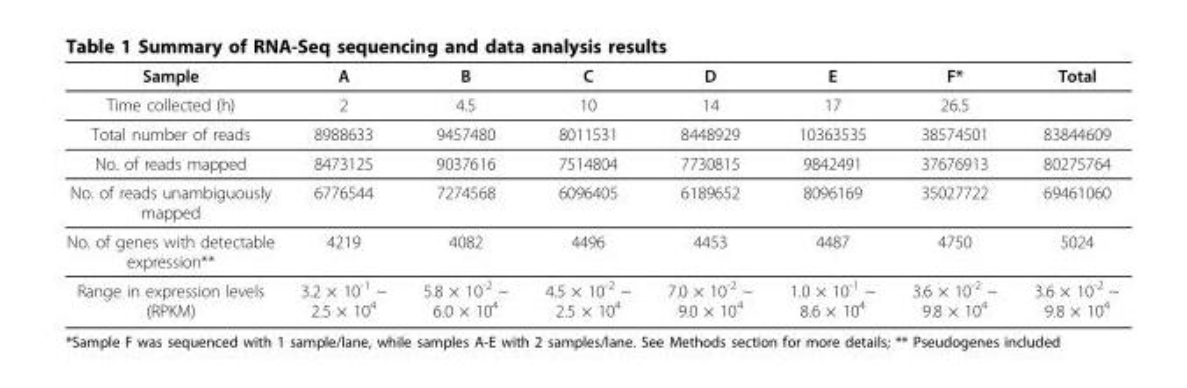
<table><thead><tr><td>Sample</td><td>A</td><td>B</td><td>C</td><td>D</td><td>E</td><td>F*</td><td>Total</td></tr></thead><tbody><tr><td>Time collected (h)</td><td>2</td><td>4.5</td><td>10</td><td>14</td><td>17</td><td>26.5</td><td></td></tr><tr><td>Total number of reads</td><td>8988633</td><td>9457480</td><td>8011531</td><td>8448929</td><td>10363535</td><td>38574501</td><td>83844609</td></tr><tr><td>No. of reads mapped</td><td>8473125</td><td>9037616</td><td>7514804</td><td>7730815</td><td>9842491</td><td>37676913</td><td>80275764</td></tr><tr><td>No. of reads unambiguously mapped</td><td>6776544</td><td>7274568</td><td>6096405</td><td>6189652</td><td>8096169</td><td>35027722</td><td>69461060</td></tr><tr><td>No. of genes with detectable expression**</td><td>4219</td><td>4082</td><td>4496</td><td>4453</td><td>4487</td><td>4750</td><td>5024</td></tr><tr><td>Range in expression levels (RPKM)</td><td>3.2 × 10<sup>-1</sup> ~ 2.5 × 10<sup>4</sup></td><td>5.8 × 10<sup>-2</sup> ~ 6.0 × 10<sup>4</sup></td><td>4.5 × 10<sup>-2</sup> ~ 2.5 × 10<sup>4</sup></td><td>7.0 × 10<sup>-2</sup> ~ 9.0 × 10<sup>4</sup></td><td>1.0 × 10<sup>-1</sup> ~ 8.6 × 10<sup>4</sup></td><td>3.6 × 10<sup>-2</sup> ~ 9.8 × 10<sup>4</sup></td><td>3.6 × 10<sup>-2</sup> ~ 9.8 × 10<sup>4</sup></td></tr></tbody></table>